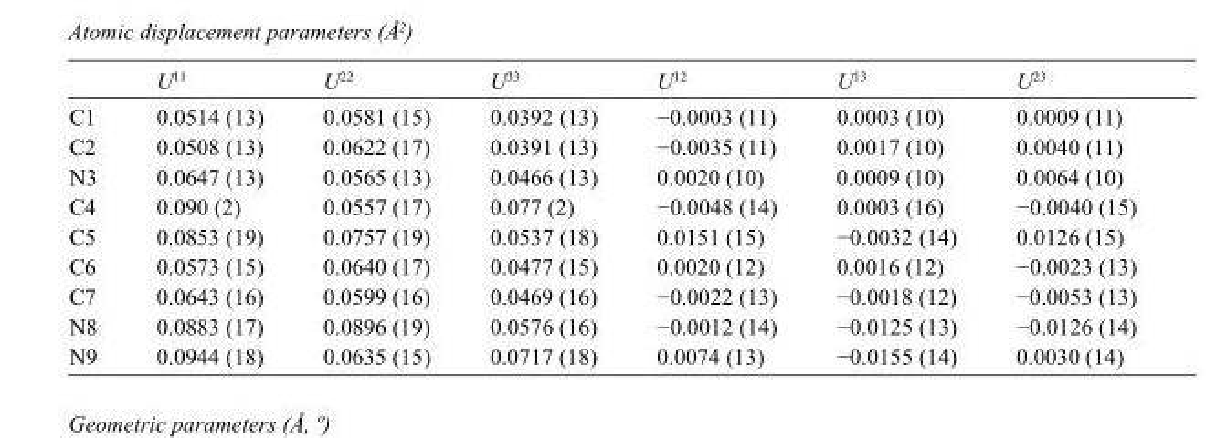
<table><thead><tr><td></td><td>U<sup>11</sup></td><td>U<sup>22</sup></td><td>U<sup>33</sup></td><td>U<sup>12</sup></td><td>U<sup>13</sup></td><td>U<sup>23</sup></td></tr></thead><tbody><tr><td>C1</td><td>0.0514 (13)</td><td>0.0581 (15)</td><td>0.0392 (13)</td><td>−0.0003 (11)</td><td>0.0003 (10)</td><td>0.0009 (11)</td></tr><tr><td>C2</td><td>0.0508 (13)</td><td>0.0622 (17)</td><td>0.0391 (13)</td><td>−0.0035 (11)</td><td>0.0017 (10)</td><td>0.0040 (11)</td></tr><tr><td>N3</td><td>0.0647 (13)</td><td>0.0565 (13)</td><td>0.0466 (13)</td><td>0.0020 (10)</td><td>0.0009 (10)</td><td>0.0064 (10)</td></tr><tr><td>C4</td><td>0.090 (2)</td><td>0.0557 (17)</td><td>0.077 (2)</td><td>−0.0048 (14)</td><td>0.0003 (16)</td><td>−0.0040 (15)</td></tr><tr><td>C5</td><td>0.0853 (19)</td><td>0.0757 (19)</td><td>0.0537 (18)</td><td>0.0151 (15)</td><td>−0.0032 (14)</td><td>0.0126 (15)</td></tr><tr><td>C6</td><td>0.0573 (15)</td><td>0.0640 (17)</td><td>0.0477 (15)</td><td>0.0020 (12)</td><td>0.0016 (12)</td><td>−0.0023 (13)</td></tr><tr><td>C7</td><td>0.0643 (16)</td><td>0.0599 (16)</td><td>0.0469 (16)</td><td>−0.0022 (13)</td><td>−0.0018 (12)</td><td>−0.0053 (13)</td></tr><tr><td>N8</td><td>0.0883 (17)</td><td>0.0896 (19)</td><td>0.0576 (16)</td><td>−0.0012 (14)</td><td>−0.0125 (13)</td><td>−0.0126 (14)</td></tr><tr><td>N9</td><td>0.0944 (18)</td><td>0.0635 (15)</td><td>0.0717 (18)</td><td>0.0074 (13)</td><td>−0.0155 (14)</td><td>0.0030 (14)</td></tr></tbody></table>